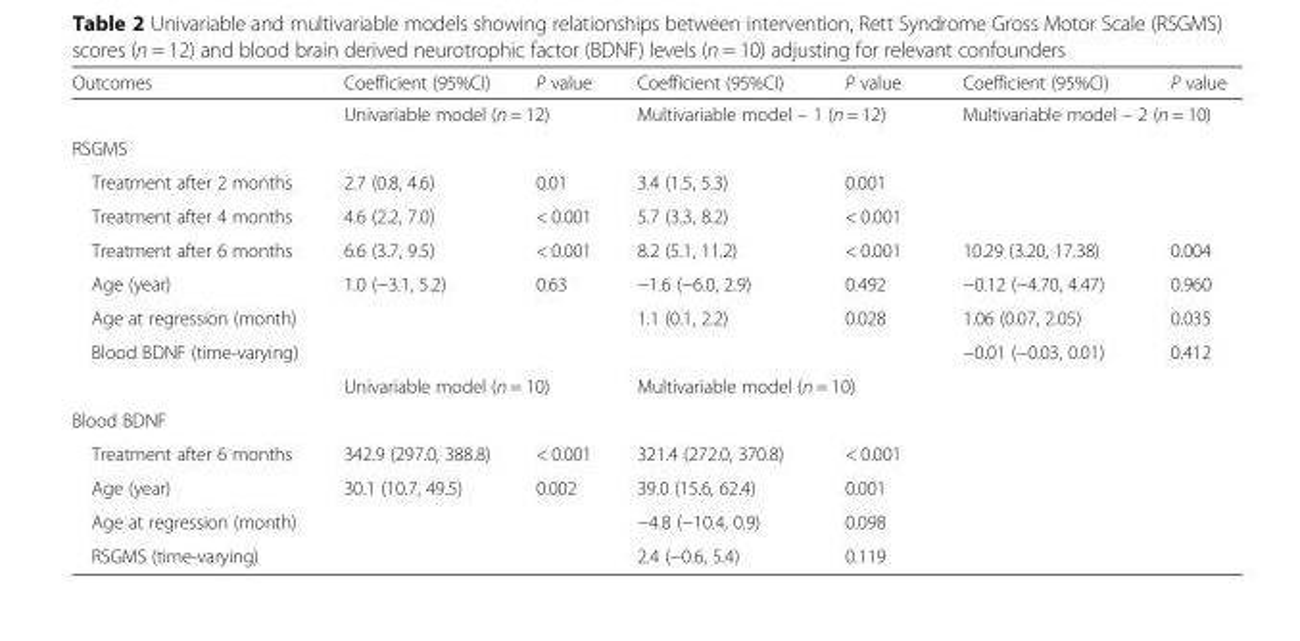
<table><thead><tr><td>Outcomes</td><td>Coefficient (95%CI)</td><td>P value</td><td>Coefficient (95%CI)</td><td>P value</td><td>Coefficient (95%CI)</td><td>P value</td></tr></thead><tbody><tr><td></td><td colspan="2">Univariable model (n = 12)</td><td colspan="2">Multivariable model – 1 (n = 12)</td><td colspan="2">Multivariable model – 2 (n = 10)</td></tr><tr><td colspan="7">RSGMS</td></tr><tr><td>Treatment after 2 months</td><td>2.7 (0.8, 4.6)</td><td>0.01</td><td>3.4 (1.5, 5.3)</td><td>0.001</td><td></td><td></td></tr><tr><td>Treatment after 4 months</td><td>4.6 (2.2, 7.0)</td><td>&lt; 0.001</td><td>5.7 (3.3, 8.2)</td><td>&lt; 0.001</td><td></td><td></td></tr><tr><td>Treatment after 6 months</td><td>6.6 (3.7, 9.5)</td><td>&lt; 0.001</td><td>8.2 (5.1, 11.2)</td><td>&lt; 0.001</td><td>10.29 (3.20, 17.38)</td><td>0.004</td></tr><tr><td>Age (year)</td><td>1.0 (−3.1, 5.2)</td><td>0.63</td><td>−1.6 (−6.0, 2.9)</td><td>0.492</td><td>−0.12 (−4.70, 4.47)</td><td>0.960</td></tr><tr><td>Age at regression (month)</td><td></td><td></td><td>1.1 (0.1, 2.2)</td><td>0.028</td><td>1.06 (0.07, 2.05)</td><td>0.035</td></tr><tr><td rowspan="2">Blood BDNF (time-varying)</td><td></td><td></td><td></td><td></td><td>−0.01 (−0.03, 0.01)</td><td>0.412</td></tr><tr><td colspan="2">Univariable model (n = 10)</td><td colspan="2">Multivariable model (n = 10)</td><td colspan="2"></td></tr><tr><td colspan="7">Blood BDNF</td></tr><tr><td>Treatment after 6 months</td><td>342.9 (297.0, 388.8)</td><td>&lt; 0.001</td><td>321.4 (272.0, 370.8)</td><td>&lt; 0.001</td><td></td><td></td></tr><tr><td>Age (year)</td><td>30.1 (10.7, 49.5)</td><td>0.002</td><td>39.0 (15.6, 62.4)</td><td>0.001</td><td></td><td></td></tr><tr><td>Age at regression (month)</td><td></td><td></td><td>−4.8 (−10.4, 0.9)</td><td>0.098</td><td></td><td></td></tr><tr><td>RSGMS (time-varying)</td><td></td><td></td><td>2.4 (−0.6, 5.4)</td><td>0.119</td><td></td><td></td></tr></tbody></table>